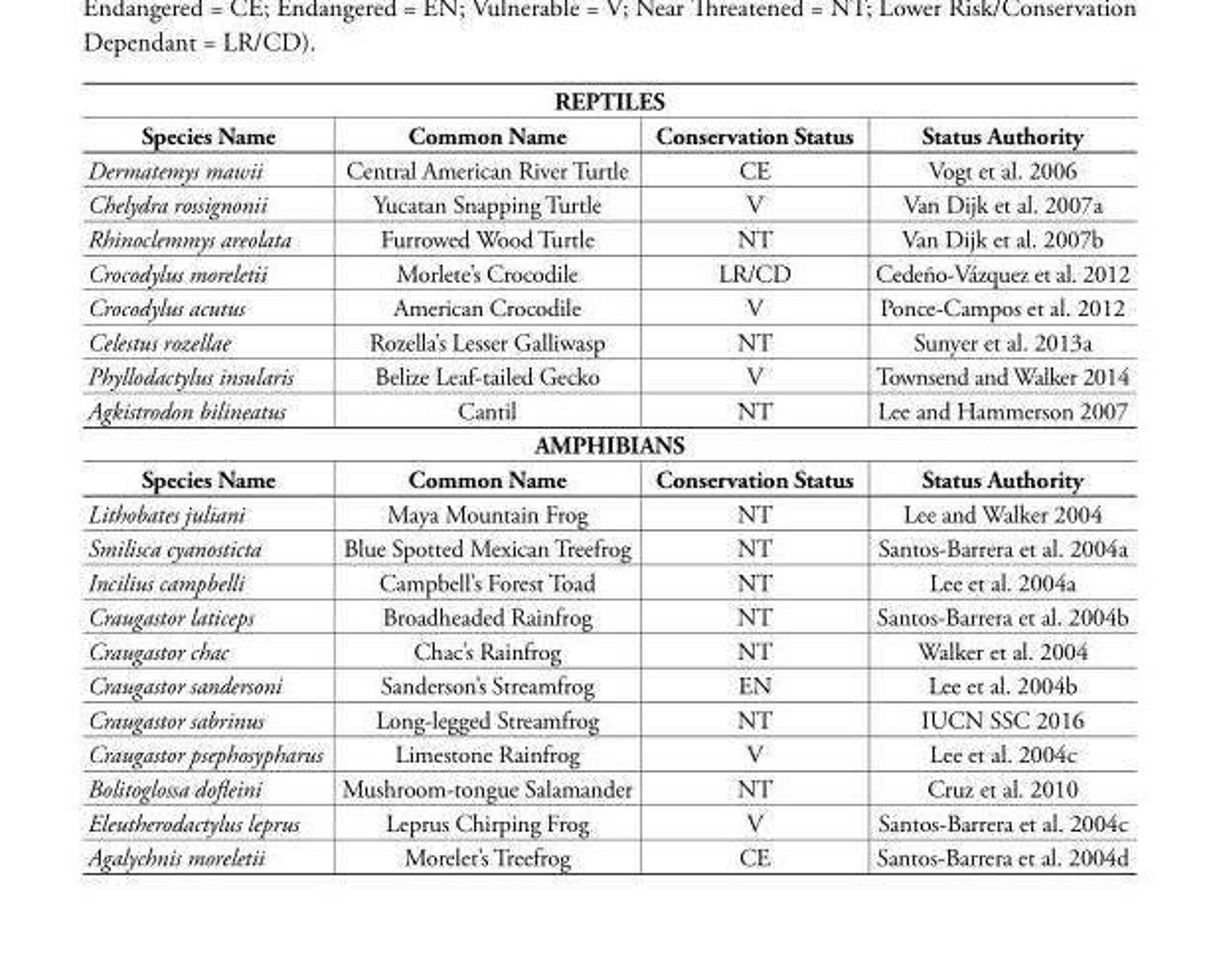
<table><thead><tr><td colspan="4">REPTILES</td></tr><tr><td>Species Name</td><td>Common Name</td><td>Conservation Status</td><td>Status Authority</td></tr></thead><tbody><tr><td>Dermatemys mawii</td><td>Central American River Turtle</td><td>CE</td><td>Vogt et al. 2006</td></tr><tr><td>Chelydra rossignonii</td><td>Yucatan Snapping Turtle</td><td>V</td><td>Van Dijk et al. 2007a</td></tr><tr><td>Rhinoclemmys areolata</td><td>Furrowed Wood Turtle</td><td>NT</td><td>Van Dijk et al. 2007b</td></tr><tr><td>Crocodylus moreletii</td><td>Morlete’s Crocodile</td><td>LR/CD</td><td>Cedeño-Vázquez et al. 2012</td></tr><tr><td>Crocodylus acutus</td><td>American Crocodile</td><td>V</td><td>Ponce-Campos et al. 2012</td></tr><tr><td>Celestus rozellae</td><td>Rozella’s Lesser Galliwasp</td><td>NT</td><td>Sunyer et al. 2013a</td></tr><tr><td>Phyllodactylus insularis</td><td>Belize Leaf-tailed Gecko</td><td>V</td><td>Townsend and Walker 2014</td></tr><tr><td>Agkistrodon bilineatus</td><td>Cantil</td><td>NT</td><td>Lee and Hammerson 2007</td></tr><tr><td colspan="4">AMPHIBIANS</td></tr><tr><td>Species Name</td><td>Common Name</td><td>Conservation Status</td><td>Status Authority</td></tr><tr><td>Lithobates juliani</td><td>Maya Mountain Frog</td><td>NT</td><td>Lee and Walker 2004</td></tr><tr><td>Smilisca cyanosticta</td><td>Blue Spotted Mexican Treefrog</td><td>NT</td><td>Santos-Barrera et al. 2004a</td></tr><tr><td>Incilius campbelli</td><td>Campbell’s Forest Toad</td><td>NT</td><td>Lee et al. 2004a</td></tr><tr><td>Craugastor laticeps</td><td>Broadheaded Rainfrog</td><td>NT</td><td>Santos-Barrera et al. 2004b</td></tr><tr><td>Craugastor chac</td><td>Chac’s Rainfrog</td><td>NT</td><td>Walker et al. 2004</td></tr><tr><td>Craugastor sandersoni</td><td>Sanderson’s Streamfrog</td><td>EN</td><td>Lee et al. 2004b</td></tr><tr><td>Craugastor sabrinus</td><td>Long-legged Streamfrog</td><td>NT</td><td>IUCN SSC 2016</td></tr><tr><td>Craugastor psephosypharus</td><td>Limestone Rainfrog</td><td>V</td><td>Lee et al. 2004c</td></tr><tr><td>Bolitoglossa dofleini</td><td>Mushroom-tongue Salamander</td><td>NT</td><td>Cruz et al. 2010</td></tr><tr><td>Eleutherodactylus leprus</td><td>Leprus Chirping Frog</td><td>V</td><td>Santos-Barrera et al. 2004c</td></tr><tr><td>Agalychnis moreletii</td><td>Morelet’s Treefrog</td><td>CE</td><td>Santos-Barrera et al. 2004d</td></tr></tbody></table>